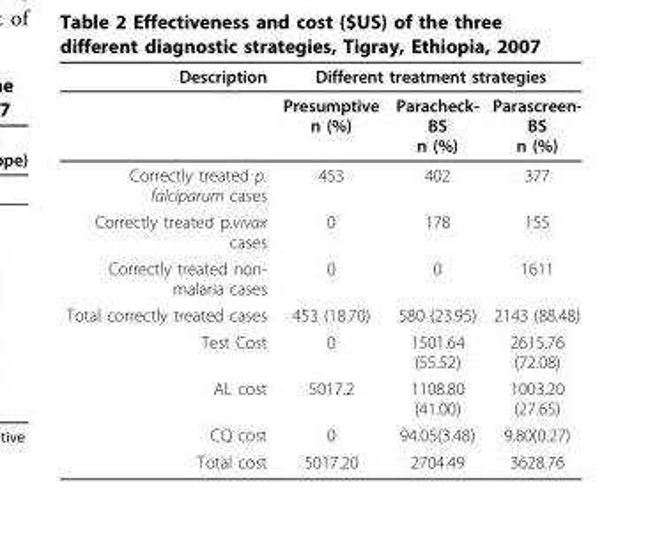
<table><thead><tr><td rowspan="2">Description</td><td colspan="3">Different treatment strategies</td></tr><tr><td>Presumptive n (%)</td><td>Paracheck- BS n (%)</td><td>Parascreen- BS n (%)</td></tr></thead><tbody><tr><td>Correctly treated p. falciparum cases</td><td>453</td><td>402</td><td>377</td></tr><tr><td>Correctly treated p.vivax cases</td><td>0</td><td>178</td><td>155</td></tr><tr><td>Correctly treated non- malaria cases</td><td>0</td><td>0</td><td>1611</td></tr><tr><td>Total correctly treated cases</td><td>453 (18.70)</td><td>580 (23.95)</td><td>2143 (88.48)</td></tr><tr><td>Test Cost</td><td>0</td><td>1501.64 (55.52)</td><td>2615.76 (72.08)</td></tr><tr><td>AL cost</td><td>5017.2</td><td>1108.80 (41.00)</td><td>1003.20 (27.65)</td></tr><tr><td>CQ cost</td><td>0</td><td>94.05(3.48)</td><td>9.80(0.27)</td></tr><tr><td>Total cost</td><td>5017.20</td><td>2704.49</td><td>3628.76</td></tr></tbody></table>